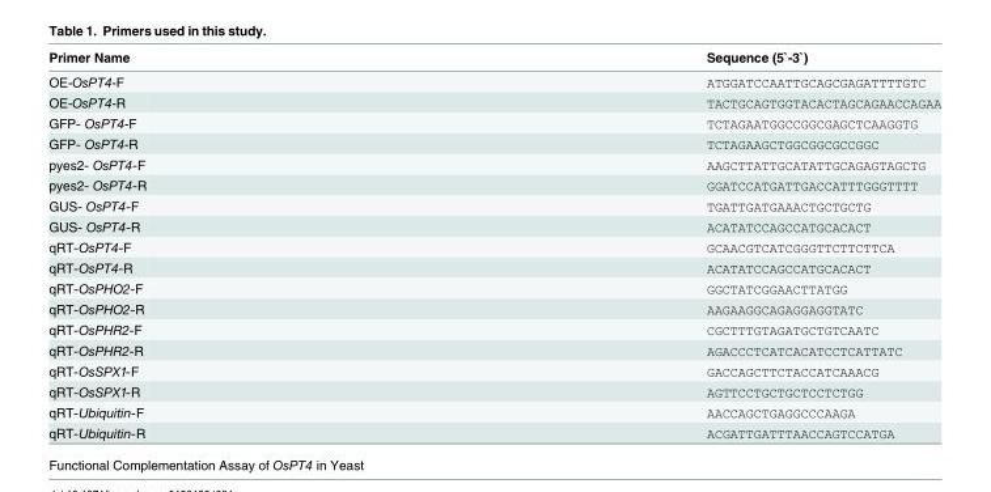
<table><thead><tr><td>Primer Name</td><td>Sequence (5`-3`)</td></tr></thead><tbody><tr><td>OE-OsPT4-F</td><td>ATGGATCCAATTGCAGCGAGATTTTGTC</td></tr><tr><td>OE-OsPT4-R</td><td>TACTGCAGTGGTACACTAGCAGAACCAGAA</td></tr><tr><td>GFP- OsPT4-F</td><td>TCTAGAATGGCCGGCGAGCTCAAGGTG</td></tr><tr><td>GFP- OsPT4-R</td><td>TCTAGAAGCTGGCGGCGCCGGC</td></tr><tr><td>pyes2- OsPT4-F</td><td>AAGCTTATTGCATATTGCAGAGTAGCTG</td></tr><tr><td>pyes2- OsPT4-R</td><td>GGATCCATGATTGACCATTTGGGTTTT</td></tr><tr><td>GUS- OsPT4-F</td><td>TGATTGATGAAACTGCTGCTG</td></tr><tr><td>GUS- OsPT4-R</td><td>ACATATCCAGCCATGCACACT</td></tr><tr><td>qRT-OsPT4-F</td><td>GCAACGTCATCGGGTTCTTCTTCA</td></tr><tr><td>qRT-OsPT4-R</td><td>ACATATCCAGCCATGCACACT</td></tr><tr><td>qRT-OsPHO2-F</td><td>GGCTATCGGAACTTATGG</td></tr><tr><td>qRT-OsPHO2-R</td><td>AAGAAGGCAGAGGAGGTATC</td></tr><tr><td>qRT-OsPHR2-F</td><td>CGCTTTGTAGATGCTGTCAATC</td></tr><tr><td>qRT-OsPHR2-R</td><td>AGACCCTCATCACATCCTCATTATC</td></tr><tr><td>qRT-OsSPX1-F</td><td>GACCAGCTTCTACCATCAAACG</td></tr><tr><td>qRT-OsSPX1-R</td><td>AGTTCCTGCTGCTCCTCTGG</td></tr><tr><td>qRT-Ubiquitin-F</td><td>AACCAGCTGAGGCCCAAGA</td></tr><tr><td>qRT-Ubiquitin-R</td><td>ACGATTGATTTAACCAGTCCATGA</td></tr></tbody></table>